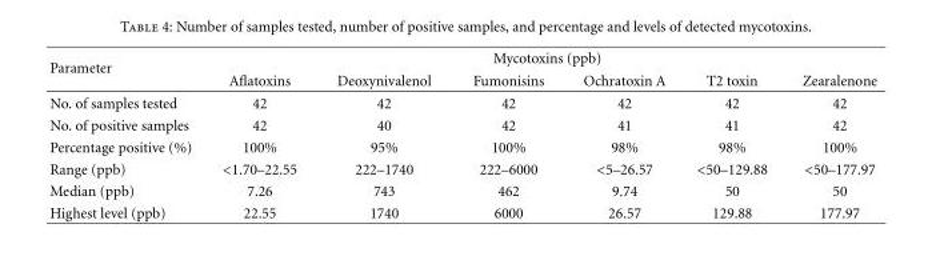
<table><thead><tr><td rowspan="2">Parameter</td><td colspan="6">Mycotoxins (ppb)</td></tr><tr><td>Aflatoxins</td><td>Deoxynivalenol</td><td>Fumonisins</td><td>Ochratoxin A</td><td>T2 toxin</td><td>Zearalenone</td></tr></thead><tbody><tr><td>No. of samples tested</td><td>42</td><td>42</td><td>42</td><td>42</td><td>42</td><td>42</td></tr><tr><td>No. of positive samples</td><td>42</td><td>40</td><td>42</td><td>41</td><td>41</td><td>42</td></tr><tr><td>Percentage positive (%)</td><td>100%</td><td>95%</td><td>100%</td><td>98%</td><td>98%</td><td>100%</td></tr><tr><td>Range (ppb)</td><td>&lt;1.70–22.55</td><td>222–1740</td><td>222–6000</td><td>&lt;5–26.57</td><td>&lt;50–129.88</td><td>&lt;50–177.97</td></tr><tr><td>Median (ppb)</td><td>7.26</td><td>743</td><td>462</td><td>9.74</td><td>50</td><td>50</td></tr><tr><td>Highest level (ppb)</td><td>22.55</td><td>1740</td><td>6000</td><td>26.57</td><td>129.88</td><td>177.97</td></tr></tbody></table>